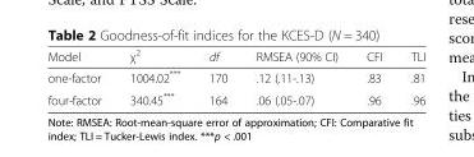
<table><thead><tr><td>Model</td><td>χ<sup>2</sup></td><td>df</td><td>RMSEA (90% CI)</td><td>CFI</td><td>TLI</td></tr></thead><tbody><tr><td>one-factor</td><td>1004.02***</td><td>170</td><td>.12 (.11-.13)</td><td>.83</td><td>.81</td></tr><tr><td>four-factor</td><td>340.45***</td><td>164</td><td>.06 (.05-.07)</td><td>.96</td><td>.96</td></tr></tbody></table>